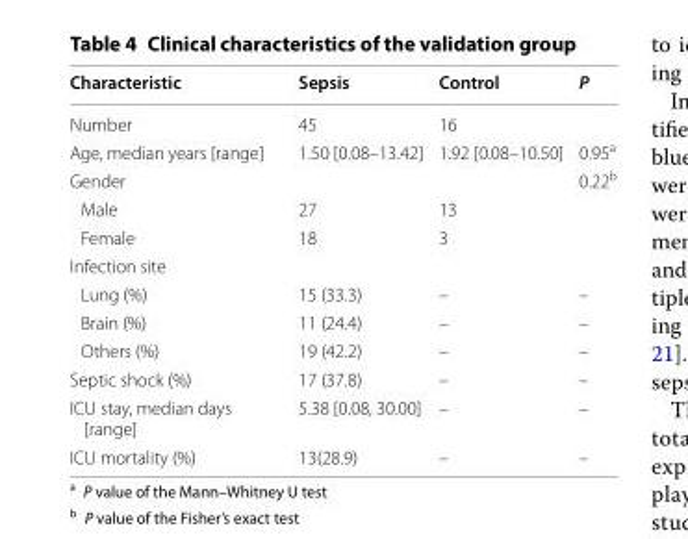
<table><thead><tr><td>Characteristic</td><td>Sepsis</td><td>Control</td><td>P</td></tr></thead><tbody><tr><td>Number</td><td>45</td><td>16</td><td></td></tr><tr><td>Age, median years [range]</td><td>1.50 [0.08–13.42]</td><td>1.92 [0.08–10.50]</td><td>0.95<sup>a</sup></td></tr><tr><td>Gender</td><td></td><td></td><td>0.22<sup>b</sup></td></tr><tr><td>Male</td><td>27</td><td>13</td><td></td></tr><tr><td>Female</td><td>18</td><td>3</td><td></td></tr><tr><td colspan="4">Infection site</td></tr><tr><td>Lung (%)</td><td>15 (33.3)</td><td>–</td><td>–</td></tr><tr><td>Brain (%)</td><td>11 (24.4)</td><td>–</td><td>–</td></tr><tr><td>Others (%)</td><td>19 (42.2)</td><td>–</td><td>–</td></tr><tr><td>Septic shock (%)</td><td>17 (37.8)</td><td>–</td><td>–</td></tr><tr><td>ICU stay, median days [range]</td><td>5.38 [0.08, 30.00]</td><td>–</td><td>–</td></tr><tr><td>ICU mortality (%)</td><td>13(28.9)</td><td>–</td><td>–</td></tr></tbody></table>